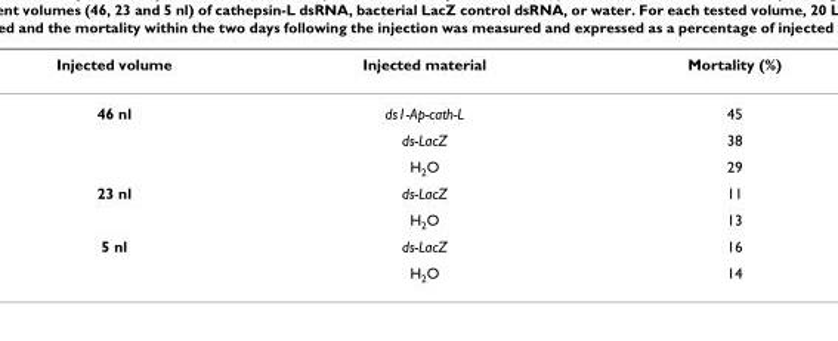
<table><thead><tr><td>Injected volume</td><td>Injected material</td><td>Mortality (%)</td></tr></thead><tbody><tr><td rowspan="3">46 nl</td><td>ds1-Ap-cath-L</td><td>45</td></tr><tr><td>ds-LacZ</td><td>38</td></tr><tr><td>H<sub>2</sub>O</td><td>29</td></tr><tr><td rowspan="2">23 nl</td><td>ds-LacZ</td><td>11</td></tr><tr><td>H<sub>2</sub>O</td><td>13</td></tr><tr><td rowspan="2">5 nl</td><td>ds-LacZ</td><td>16</td></tr><tr><td>H<sub>2</sub>O</td><td>14</td></tr></tbody></table>